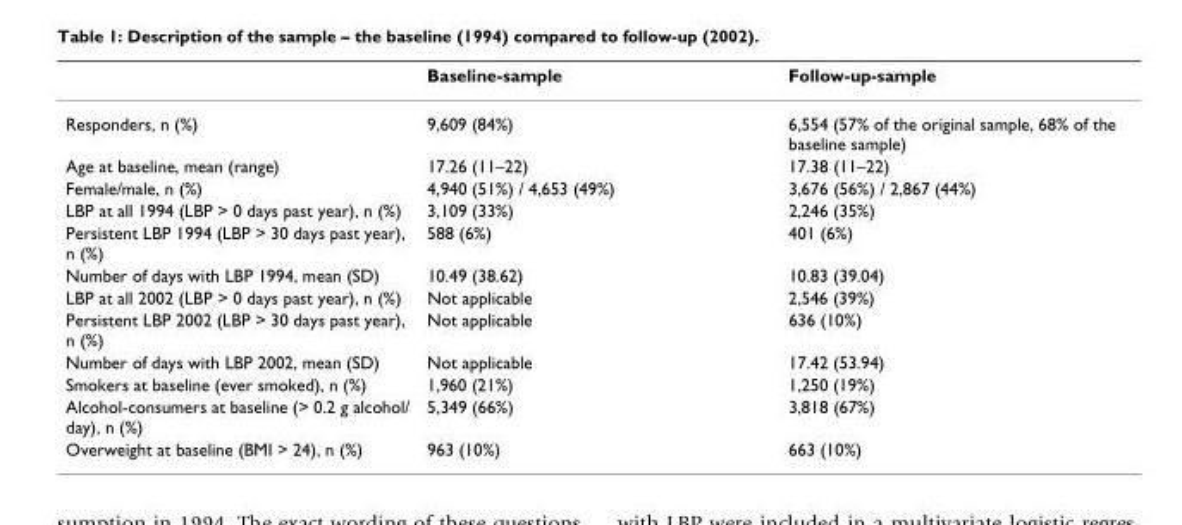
<table><thead><tr><td></td><td>Baseline-sample</td><td>Follow-up-sample</td></tr></thead><tbody><tr><td>Responders, n (%)</td><td>9,609 (84%)</td><td>6,554 (57% of the original sample, 68% of the baseline sample)</td></tr><tr><td>Age at baseline, mean (range)</td><td>17.26 (11–22)</td><td>17.38 (11–22)</td></tr><tr><td>Female/male, n (%)</td><td>4,940 (51%) / 4,653 (49%)</td><td>3,676 (56%) / 2,867 (44%)</td></tr><tr><td>LBP at all 1994 (LBP &gt; 0 days past year), n (%)</td><td>3,109 (33%)</td><td>2,246 (35%)</td></tr><tr><td>Persistent LBP 1994 (LBP &gt; 30 days past year), n (%)</td><td>588 (6%)</td><td>401 (6%)</td></tr><tr><td>Number of days with LBP 1994, mean (SD)</td><td>10.49 (38.62)</td><td>10.83 (39.04)</td></tr><tr><td>LBP at all 2002 (LBP &gt; 0 days past year), n (%)</td><td>Not applicable</td><td>2,546 (39%)</td></tr><tr><td>Persistent LBP 2002 (LBP &gt; 30 days past year), n (%)</td><td>Not applicable</td><td>636 (10%)</td></tr><tr><td>Number of days with LBP 2002, mean (SD)</td><td>Not applicable</td><td>17.42 (53.94)</td></tr><tr><td>Smokers at baseline (ever smoked), n (%)</td><td>1,960 (21%)</td><td>1,250 (19%)</td></tr><tr><td>Alcohol-consumers at baseline (&gt; 0.2 g alcohol/ day), n (%)</td><td>5,349 (66%)</td><td>3,818 (67%)</td></tr><tr><td>Overweight at baseline (BMI &gt; 24), n (%)</td><td>963 (10%)</td><td>663 (10%)</td></tr></tbody></table>